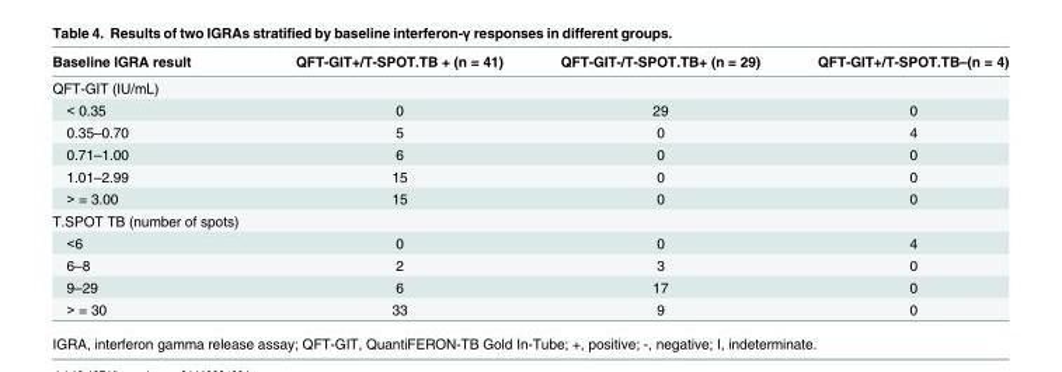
<table><thead><tr><td>Baseline IGRA result</td><td>QFT-GIT+/T-SPOT.TB + (n = 41)</td><td>QFT-GIT-/T-SPOT.TB+ (n = 29)</td><td>QFT-GIT+/T-SPOT.TB–(n = 4)</td></tr></thead><tbody><tr><td colspan="4">QFT-GIT (IU/mL)</td></tr><tr><td>&lt; 0.35</td><td>0</td><td>29</td><td>0</td></tr><tr><td>0.35–0.70</td><td>5</td><td>0</td><td>4</td></tr><tr><td>0.71–1.00</td><td>6</td><td>0</td><td>0</td></tr><tr><td>1.01–2.99</td><td>15</td><td>0</td><td>0</td></tr><tr><td>&gt; = 3.00</td><td>15</td><td>0</td><td>0</td></tr><tr><td colspan="4">T.SPOT TB (number of spots)</td></tr><tr><td>&lt;6</td><td>0</td><td>0</td><td>4</td></tr><tr><td>6–8</td><td>2</td><td>3</td><td>0</td></tr><tr><td>9–29</td><td>6</td><td>17</td><td>0</td></tr><tr><td>&gt; = 30</td><td>33</td><td>9</td><td>0</td></tr></tbody></table>